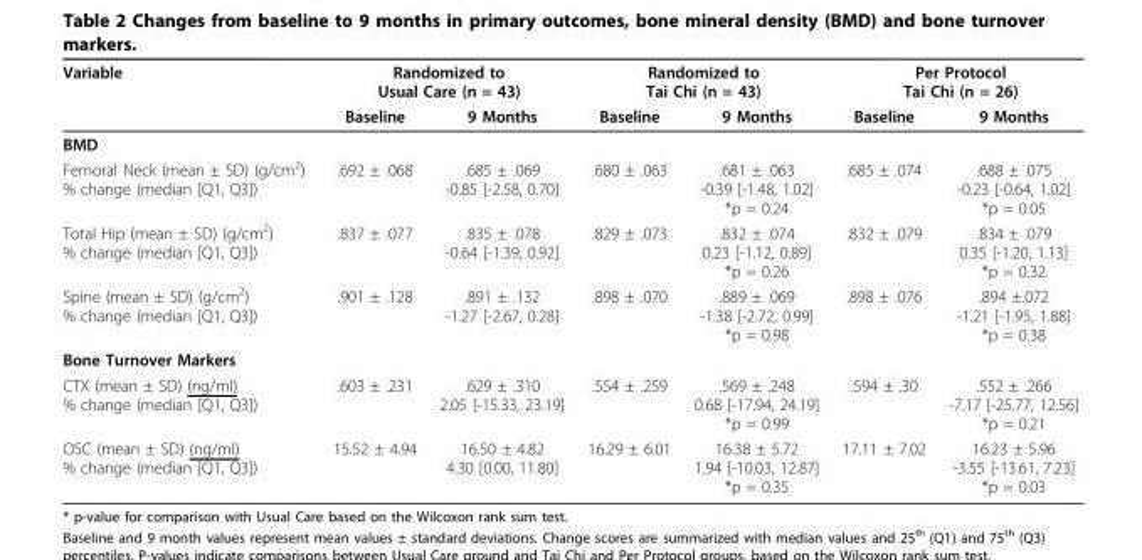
<table><thead><tr><td rowspan="2">Variable</td><td colspan="2">Randomized to Usual Care (n = 43)</td><td colspan="2">Randomized to Tai Chi (n = 43)</td><td colspan="2">Per Protocol Tai Chi (n = 26)</td></tr><tr><td>Baseline</td><td>9 Months</td><td>Baseline</td><td>9 Months</td><td>Baseline</td><td>9 Months</td></tr></thead><tbody><tr><td colspan="7">BMD</td></tr><tr><td>Femoral Neck (mean ± SD) (g/cm<sup>2</sup>) % change (median [Q1, Q3])</td><td>.692 ± .068</td><td>.685 ± .069 -0.85 [-2.58, 0.70]</td><td>.680 ± .063</td><td>.681 ± .063 -0.39 [-1.48, 1.02] *p = 0.24</td><td>.685 ± .074</td><td>.688 ± .075 -0.23 [-0.64, 1.02] *p = 0.05</td></tr><tr><td>Total Hip (mean ± SD) (g/cm<sup>2</sup>) % change (median [Q1, Q3])</td><td>.837 ± .077</td><td>.835 ± .078 -0.64 [-1.39, 0.92]</td><td>.829 ± .073</td><td>.832 ± .074 0.23 [-1.12, 0.89] *p = 0.26</td><td>.832 ± .079</td><td>.834 ± .079 0.35 [-1.20, 1.13] *p = 0.32</td></tr><tr><td>Spine (mean ± SD) (g/cm<sup>2</sup>) % change (median [Q1, Q3])</td><td>.901 ± .128</td><td>.891 ± .132 -1.27 [-2.67, 0.28]</td><td>.898 ± .070</td><td>.889 ± .069 -1.38 [-2.72, 0.99] *p = 0.98</td><td>.898 ± .076</td><td>.894 ±.072 -1.21 [-1.95, 1.88] *p = 0.38</td></tr><tr><td colspan="7">Bone Turnover Markers</td></tr><tr><td>CTX (mean ± SD) (ng/ml) % change (median [Q1, Q3])</td><td>.603 ± .231</td><td>.629 ± .310 2.05 [-15.33, 23.19]</td><td>.554 ± .259</td><td>.569 ± .248 0.68 [-17.94, 24.19] *p = 0.99</td><td>.594 ± .30</td><td>.552 ± .266 -7.17 [-25.77, 12.56] *p = 0.21</td></tr><tr><td>OSC (mean ± SD) (ng/ml) % change (median [Q1, Q3])</td><td>15.52 ± 4.94</td><td>16.50 ± 4.82 4.30 [0.00, 11.80]</td><td>16.29 ± 6.01</td><td>16.38 ± 5.72 1.94 [-10.03, 12.87] *p = 0.35</td><td>17.11 ± 7.02</td><td>16.23 ± 5.96 -3.55 [-13.61, 7.23] *p = 0.03</td></tr></tbody></table>